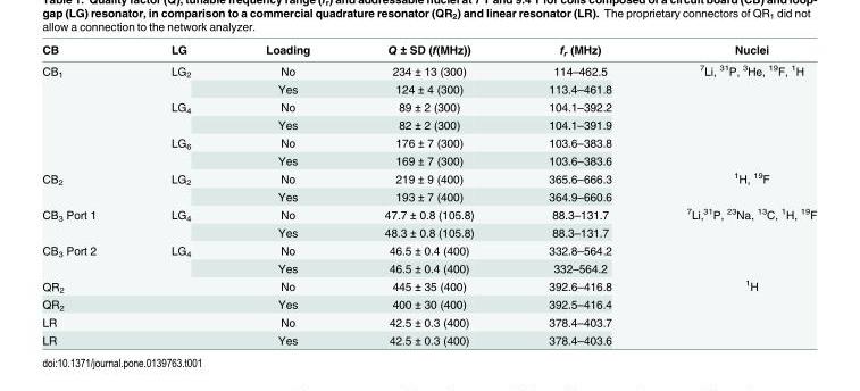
<table><thead><tr><td>CB</td><td>LG</td><td>Loading</td><td>Q ± SD (f(MHz))</td><td>f<sub>r</sub> (MHz)</td><td>Nuclei</td></tr></thead><tbody><tr><td rowspan="6">CB<sub>1</sub></td><td rowspan="2">LG<sub>2</sub></td><td>No</td><td>234 ± 13 (300)</td><td>114–462.5</td><td rowspan="6"><sup>7</sup>Li, <sup>31</sup>P, <sup>3</sup>He, <sup>19</sup>F, <sup>1</sup>H</td></tr><tr><td>Yes</td><td>124 ± 4 (300)</td><td>113.4–461.8</td></tr><tr><td rowspan="2">LG<sub>4</sub></td><td>No</td><td>89 ± 2 (300)</td><td>104.1–392.2</td></tr><tr><td>Yes</td><td>82 ± 2 (300)</td><td>104.1–391.9</td></tr><tr><td rowspan="2">LG<sub>6</sub></td><td>No</td><td>176 ± 7 (300)</td><td>103.6–383.8</td></tr><tr><td>Yes</td><td>169 ± 7 (300)</td><td>103.6–383.6</td></tr><tr><td rowspan="2">CB<sub>2</sub></td><td rowspan="2">LG<sub>2</sub></td><td>No</td><td>219 ± 9 (400)</td><td>365.6–666.3</td><td rowspan="2"><sup>1</sup>H, <sup>19</sup>F</td></tr><tr><td>Yes</td><td>193 ± 7 (400)</td><td>364.9–660.6</td></tr><tr><td rowspan="2">CB<sub>3</sub> Port 1</td><td rowspan="2">LG<sub>4</sub></td><td>No</td><td>47.7 ± 0.8 (105.8)</td><td>88.3–131.7</td><td rowspan="4"><sup>7</sup>Li,<sup>31</sup>P, <sup>23</sup>Na, <sup>13</sup>C, <sup>1</sup>H, <sup>19</sup>F</td></tr><tr><td>Yes</td><td>48.3 ± 0.8 (105.8)</td><td>88.3–131.7</td></tr><tr><td rowspan="2">CB<sub>3</sub> Port 2</td><td rowspan="2">LG<sub>4</sub></td><td>No</td><td>46.5 ± 0.4 (400)</td><td>332.8–564.2</td></tr><tr><td>Yes</td><td>46.5 ± 0.4 (400)</td><td>332–564.2</td></tr><tr><td>QR<sub>2</sub></td><td></td><td>No</td><td>445 ± 35 (400)</td><td>392.6–416.8</td><td rowspan="4"><sup>1</sup>H</td></tr><tr><td>QR<sub>2</sub></td><td></td><td>Yes</td><td>400 ± 30 (400)</td><td>392.5–416.4</td></tr><tr><td>LR</td><td></td><td>No</td><td>42.5 ± 0.3 (400)</td><td>378.4–403.7</td></tr><tr><td>LR</td><td></td><td>Yes</td><td>42.5 ± 0.3 (400)</td><td>378.4–403.6</td></tr></tbody></table>